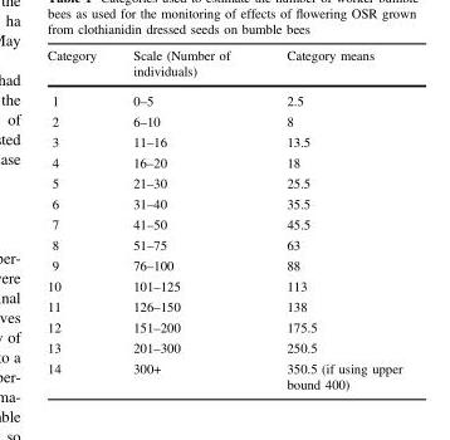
<table><thead><tr><td>Category</td><td>Scale (Number of individuals)</td><td>Category means</td></tr></thead><tbody><tr><td>1</td><td>0–5</td><td>2.5</td></tr><tr><td>2</td><td>6–10</td><td>8</td></tr><tr><td>3</td><td>11–16</td><td>13.5</td></tr><tr><td>4</td><td>16–20</td><td>18</td></tr><tr><td>5</td><td>21–30</td><td>25.5</td></tr><tr><td>6</td><td>31–40</td><td>35.5</td></tr><tr><td>7</td><td>41–50</td><td>45.5</td></tr><tr><td>8</td><td>51–75</td><td>63</td></tr><tr><td>9</td><td>76–100</td><td>88</td></tr><tr><td>10</td><td>101–125</td><td>113</td></tr><tr><td>11</td><td>126–150</td><td>138</td></tr><tr><td>12</td><td>151–200</td><td>175.5</td></tr><tr><td>13</td><td>201–300</td><td>250.5</td></tr><tr><td>14</td><td>300+</td><td>350.5 (if using upper bound 400)</td></tr></tbody></table>